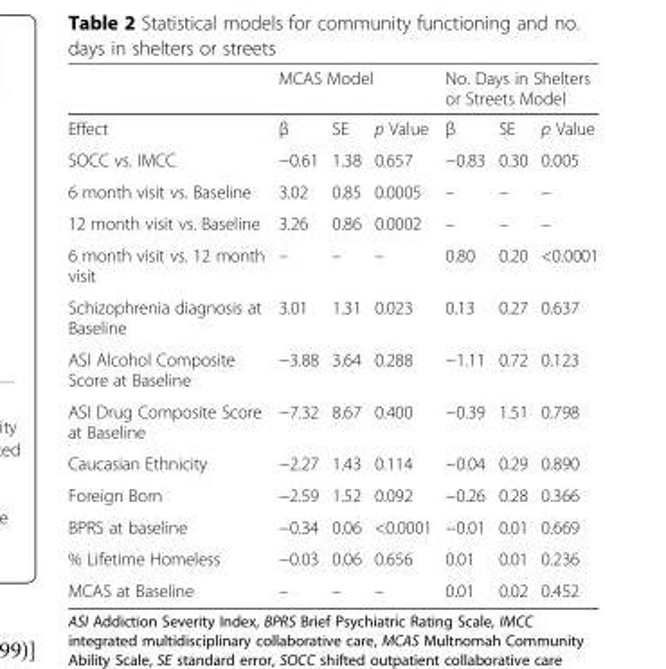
<table><thead><tr><td rowspan="2">Effect</td><td colspan="3">MCAS Model</td><td colspan="3">No. Days in Shelters or Streets Model</td></tr><tr><td>β</td><td>SE</td><td>p Value</td><td>β</td><td>SE</td><td>p Value</td></tr></thead><tbody><tr><td>SOCC vs. IMCC</td><td>−0.61</td><td>1.38</td><td>0.657</td><td>−0.83</td><td>0.30</td><td>0.005</td></tr><tr><td>6 month visit vs. Baseline</td><td>3.02</td><td>0.85</td><td>0.0005</td><td>–</td><td>–</td><td>–</td></tr><tr><td>12 month visit vs. Baseline</td><td>3.26</td><td>0.86</td><td>0.0002</td><td>–</td><td>–</td><td>–</td></tr><tr><td>6 month visit vs. 12 month visit</td><td>–</td><td>–</td><td>–</td><td>0.80</td><td>0.20</td><td>&lt;0.0001</td></tr><tr><td>Schizophrenia diagnosis at Baseline</td><td>3.01</td><td>1.31</td><td>0.023</td><td>0.13</td><td>0.27</td><td>0.637</td></tr><tr><td>ASI Alcohol Composite Score at Baseline</td><td>−3.88</td><td>3.64</td><td>0.288</td><td>−1.11</td><td>0.72</td><td>0.123</td></tr><tr><td>ASI Drug Composite Score at Baseline</td><td>−7.32</td><td>8.67</td><td>0.400</td><td>−0.39</td><td>1.51</td><td>0.798</td></tr><tr><td>Caucasian Ethnicity</td><td>−2.27</td><td>1.43</td><td>0.114</td><td>−0.04</td><td>0.29</td><td>0.890</td></tr><tr><td>Foreign Born</td><td>−2.59</td><td>1.52</td><td>0.092</td><td>−0.26</td><td>0.28</td><td>0.366</td></tr><tr><td>BPRS at baseline</td><td>−0.34</td><td>0.06</td><td>&lt;0.0001</td><td>−0.01</td><td>0.01</td><td>0.669</td></tr><tr><td>% Lifetime Homeless</td><td>−0.03</td><td>0.06</td><td>0.656</td><td>0.01</td><td>0.01</td><td>0.236</td></tr><tr><td>MCAS at Baseline</td><td>–</td><td>–</td><td>–</td><td>0.01</td><td>0.02</td><td>0.452</td></tr></tbody></table>